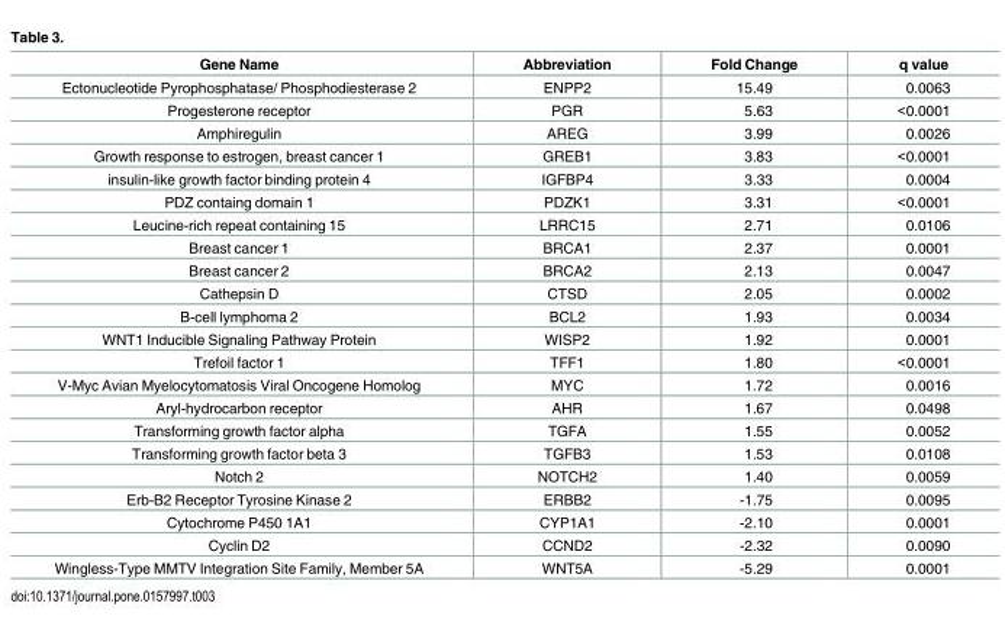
<table><thead><tr><td>Gene Name</td><td>Abbreviation</td><td>Fold Change</td><td>q value</td></tr></thead><tbody><tr><td>Ectonucleotide Pyrophosphatase/ Phosphodiesterase 2</td><td>ENPP2</td><td>15.49</td><td>0.0063</td></tr><tr><td>Progesterone receptor</td><td>PGR</td><td>5.63</td><td>&lt;0.0001</td></tr><tr><td>Amphiregulin</td><td>AREG</td><td>3.99</td><td>0.0026</td></tr><tr><td>Growth response to estrogen, breast cancer 1</td><td>GREB1</td><td>3.83</td><td>&lt;0.0001</td></tr><tr><td>insulin-like growth factor binding protein 4</td><td>IGFBP4</td><td>3.33</td><td>0.0004</td></tr><tr><td>PDZ containg domain 1</td><td>PDZK1</td><td>3.31</td><td>&lt;0.0001</td></tr><tr><td>Leucine-rich repeat containing 15</td><td>LRRC15</td><td>2.71</td><td>0.0106</td></tr><tr><td>Breast cancer 1</td><td>BRCA1</td><td>2.37</td><td>0.0001</td></tr><tr><td>Breast cancer 2</td><td>BRCA2</td><td>2.13</td><td>0.0047</td></tr><tr><td>Cathepsin D</td><td>CTSD</td><td>2.05</td><td>0.0002</td></tr><tr><td>B-cell lymphoma 2</td><td>BCL2</td><td>1.93</td><td>0.0034</td></tr><tr><td>WNT1 Inducible Signaling Pathway Protein</td><td>WISP2</td><td>1.92</td><td>0.0001</td></tr><tr><td>Trefoil factor 1</td><td>TFF1</td><td>1.80</td><td>&lt;0.0001</td></tr><tr><td>V-Myc Avian Myelocytomatosis Viral Oncogene Homolog</td><td>MYC</td><td>1.72</td><td>0.0016</td></tr><tr><td>Aryl-hydrocarbon receptor</td><td>AHR</td><td>1.67</td><td>0.0498</td></tr><tr><td>Transforming growth factor alpha</td><td>TGFA</td><td>1.55</td><td>0.0052</td></tr><tr><td>Transforming growth factor beta 3</td><td>TGFB3</td><td>1.53</td><td>0.0108</td></tr><tr><td>Notch 2</td><td>NOTCH2</td><td>1.40</td><td>0.0059</td></tr><tr><td>Erb-B2 Receptor Tyrosine Kinase 2</td><td>ERBB2</td><td>-1.75</td><td>0.0095</td></tr><tr><td>Cytochrome P450 1A1</td><td>CYP1A1</td><td>-2.10</td><td>0.0001</td></tr><tr><td>Cyclin D2</td><td>CCND2</td><td>-2.32</td><td>0.0090</td></tr><tr><td>Wingless-Type MMTV Integration Site Family, Member 5A</td><td>WNT5A</td><td>-5.29</td><td>0.0001</td></tr></tbody></table>